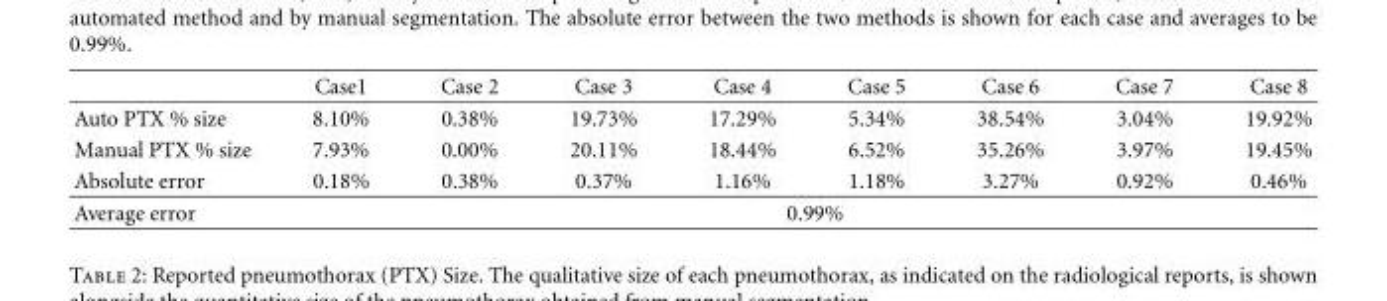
<table><thead><tr><td></td><td>Case1</td><td>Case 2</td><td>Case 3</td><td>Case 4</td><td>Case 5</td><td>Case 6</td><td>Case 7</td><td>Case 8</td></tr></thead><tbody><tr><td>Auto PTX % size</td><td>8.10%</td><td>0.38%</td><td>19.73%</td><td>17.29%</td><td>5.34%</td><td>38.54%</td><td>3.04%</td><td>19.92%</td></tr><tr><td>Manual PTX % size</td><td>7.93%</td><td>0.00%</td><td>20.11%</td><td>18.44%</td><td>6.52%</td><td>35.26%</td><td>3.97%</td><td>19.45%</td></tr><tr><td>Absolute error</td><td>0.18%</td><td>0.38%</td><td>0.37%</td><td>1.16%</td><td>1.18%</td><td>3.27%</td><td>0.92%</td><td>0.46%</td></tr><tr><td>Average error</td><td colspan="8">0.99%</td></tr></tbody></table>